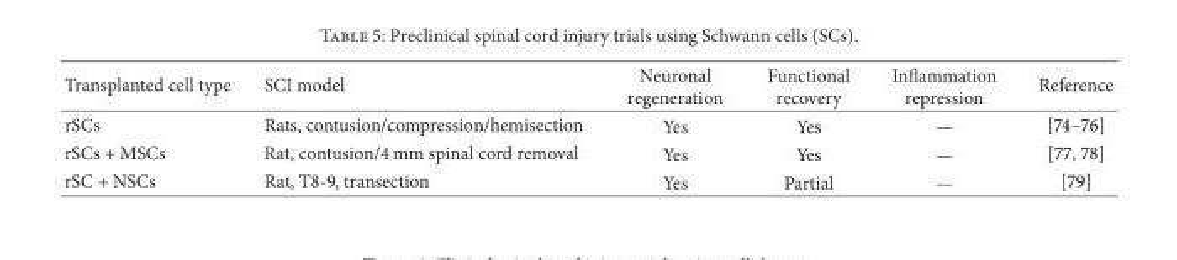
<table><thead><tr><td>Transplanted cell type</td><td>SCI model</td><td>Neuronal regeneration</td><td>Functional recovery</td><td>Inflammation repression</td><td>Reference</td></tr></thead><tbody><tr><td>rSCs</td><td>Rats, contusion/compression/hemisection</td><td>Yes</td><td>Yes</td><td>—</td><td>[74–76]</td></tr><tr><td>rSCs + MSCs</td><td>Rat, contusion/4 mm spinal cord removal</td><td>Yes</td><td>Yes</td><td>—</td><td>[77, 78]</td></tr><tr><td>rSC + NSCs</td><td>Rat, T8-9, transection</td><td>Yes</td><td>Partial</td><td>—</td><td>[79]</td></tr></tbody></table>